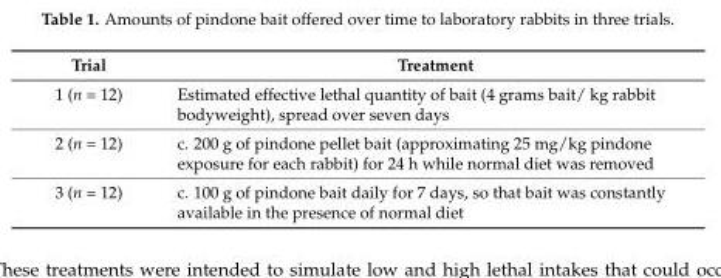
<table><thead><tr><td>Trial</td><td>Treatment</td></tr></thead><tbody><tr><td>1 (n = 12)</td><td>Estimated effective lethal quantity of bait (4 grams bait/ kg rabbit bodyweight), spread over seven days</td></tr><tr><td>2 (n = 12)</td><td>c. 200 g of pindone pellet bait (approximating 25 mg/kg pindone exposure for each rabbit) for 24 h while normal diet was removed</td></tr><tr><td>3 (n = 12)</td><td>c. 100 g of pindone bait daily for 7 days, so that bait was constantly available in the presence of normal diet</td></tr></tbody></table>